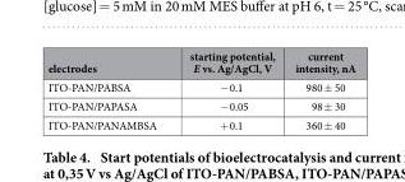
<table><thead><tr><td>electrodes</td><td>starting potential, E vs. Ag/AgCl, V</td><td>current intensity, nA</td></tr></thead><tbody><tr><td>ITO-PAN/PABSA</td><td>− 0.1</td><td>980 ± 50</td></tr><tr><td>ITO-PAN/PAPASA</td><td>− 0.05</td><td>98 ± 30</td></tr><tr><td>ITO-PAN/PANAMBSA</td><td>+ 0.1</td><td>360 ± 40</td></tr></tbody></table>